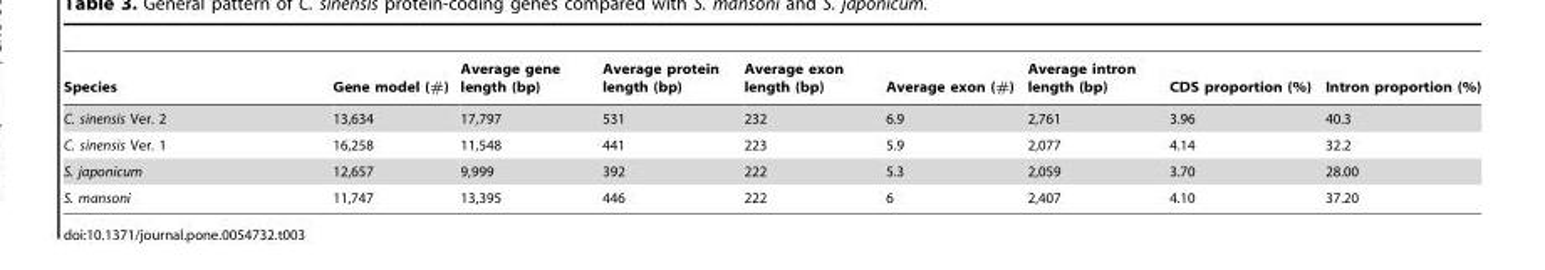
<table><thead><tr><td>Species</td><td>Gene model (#)</td><td>Average gene length (bp)</td><td>Average protein length (bp)</td><td>Average exon length (bp)</td><td>Average exon (#)</td><td>Average intron length (bp)</td><td>CDS proportion (%)</td><td>Intron proportion (%)</td></tr></thead><tbody><tr><td>C. sinensis Ver. 2</td><td>13,634</td><td>17,797</td><td>531</td><td>232</td><td>6.9</td><td>2,761</td><td>3.96</td><td>40.3</td></tr><tr><td>C. sinensis Ver. 1</td><td>16,258</td><td>11,548</td><td>441</td><td>223</td><td>5.9</td><td>2,077</td><td>4.14</td><td>32.2</td></tr><tr><td>S. japonicum</td><td>12,657</td><td>9,999</td><td>392</td><td>222</td><td>5.3</td><td>2,059</td><td>3.70</td><td>28.00</td></tr><tr><td>S. mansoni</td><td>11,747</td><td>13,395</td><td>446</td><td>222</td><td>6</td><td>2,407</td><td>4.10</td><td>37.20</td></tr></tbody></table>